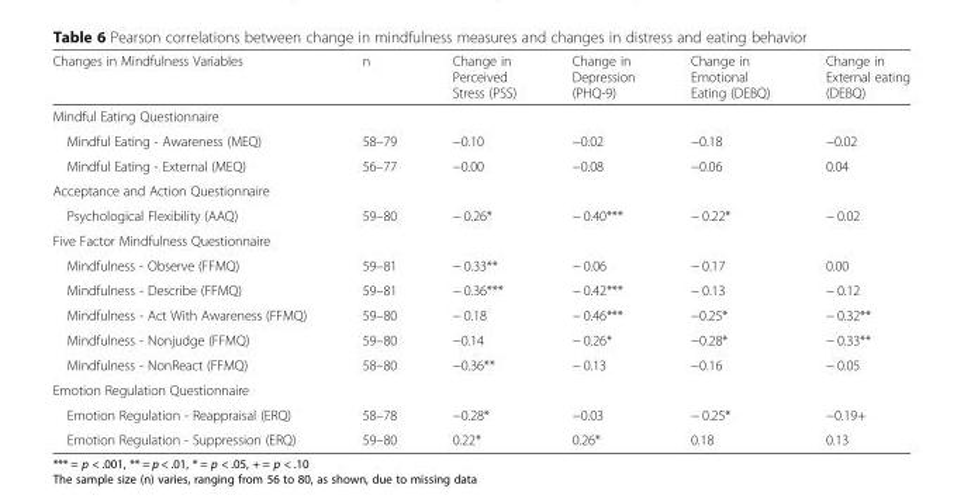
<table><thead><tr><td>Changes in Mindfulness Variables</td><td>n</td><td>Change in Perceived Stress (PSS)</td><td>Change in Depression (PHQ-9)</td><td>Change in Emotional Eating (DEBQ)</td><td>Change in External eating (DEBQ)</td></tr></thead><tbody><tr><td colspan="6">Mindful Eating Questionnaire</td></tr><tr><td>Mindful Eating - Awareness (MEQ)</td><td>58–79</td><td>−0.10</td><td>−0.02</td><td>−0.18</td><td>−0.02</td></tr><tr><td>Mindful Eating - External (MEQ)</td><td>56–77</td><td>−0.00</td><td>−0.08</td><td>−0.06</td><td>0.04</td></tr><tr><td colspan="6">Acceptance and Action Questionnaire</td></tr><tr><td>Psychological Flexibility (AAQ)</td><td>59–80</td><td>− 0.26*</td><td>− 0.40***</td><td>− 0.22*</td><td>− 0.02</td></tr><tr><td colspan="6">Five Factor Mindfulness Questionnaire</td></tr><tr><td>Mindfulness - Observe (FFMQ)</td><td>59–81</td><td>− 0.33**</td><td>− 0.06</td><td>− 0.17</td><td>0.00</td></tr><tr><td>Mindfulness - Describe (FFMQ)</td><td>59–81</td><td>− 0.36***</td><td>− 0.42***</td><td>− 0.13</td><td>− 0.12</td></tr><tr><td>Mindfulness - Act With Awareness (FFMQ)</td><td>59–80</td><td>− 0.18</td><td>− 0.46***</td><td>−0.25*</td><td>− 0.32**</td></tr><tr><td>Mindfulness - Nonjudge (FFMQ)</td><td>59–80</td><td>−0.14</td><td>− 0.26*</td><td>−0.28*</td><td>− 0.33**</td></tr><tr><td>Mindfulness - NonReact (FFMQ)</td><td>58–80</td><td>−0.36**</td><td>− 0.13</td><td>−0.16</td><td>− 0.05</td></tr><tr><td colspan="6">Emotion Regulation Questionnaire</td></tr><tr><td>Emotion Regulation - Reappraisal (ERQ)</td><td>58–78</td><td>−0.28*</td><td>−0.03</td><td>− 0.25*</td><td>−0.19+</td></tr><tr><td>Emotion Regulation - Suppression (ERQ)</td><td>59–80</td><td>0.22*</td><td>0.26*</td><td>0.18</td><td>0.13</td></tr></tbody></table>